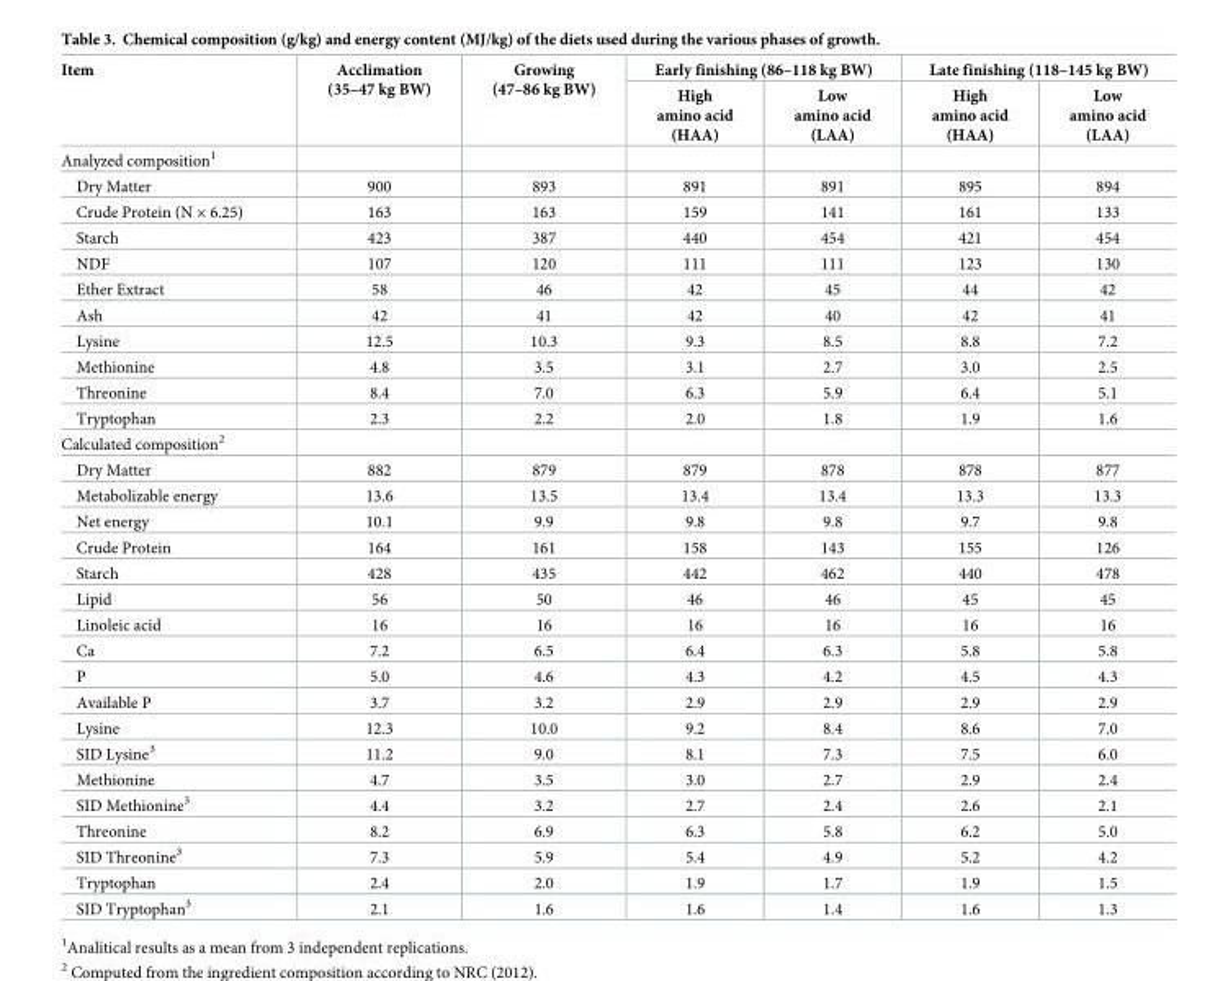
<table><thead><tr><td rowspan="2">Item</td><td rowspan="2">Acclimation (35–47 kg BW)</td><td rowspan="2">Growing (47–86 kg BW)</td><td colspan="2">Early finishing (86–118 kg BW)</td><td colspan="2">Late finishing (118–145 kg BW)</td></tr><tr><td>High amino acid (HAA)</td><td>Low amino acid (LAA)</td><td>High amino acid (HAA)</td><td>Low amino acid (LAA)</td></tr></thead><tbody><tr><td colspan="7">Analyzed composition<sup>1</sup></td></tr><tr><td>Dry Matter</td><td>900</td><td>893</td><td>891</td><td>891</td><td>895</td><td>894</td></tr><tr><td>Crude Protein (N × 6.25)</td><td>163</td><td>163</td><td>159</td><td>141</td><td>161</td><td>133</td></tr><tr><td>Starch</td><td>423</td><td>387</td><td>440</td><td>454</td><td>421</td><td>454</td></tr><tr><td>NDF</td><td>107</td><td>120</td><td>111</td><td>111</td><td>123</td><td>130</td></tr><tr><td>Ether Extract</td><td>58</td><td>46</td><td>42</td><td>45</td><td>44</td><td>42</td></tr><tr><td>Ash</td><td>42</td><td>41</td><td>42</td><td>40</td><td>42</td><td>41</td></tr><tr><td>Lysine</td><td>12.5</td><td>10.3</td><td>9.3</td><td>8.5</td><td>8.8</td><td>7.2</td></tr><tr><td>Methionine</td><td>4.8</td><td>3.5</td><td>3.1</td><td>2.7</td><td>3.0</td><td>2.5</td></tr><tr><td>Threonine</td><td>8.4</td><td>7.0</td><td>6.3</td><td>5.9</td><td>6.4</td><td>5.1</td></tr><tr><td>Tryptophan</td><td>2.3</td><td>2.2</td><td>2.0</td><td>1.8</td><td>1.9</td><td>1.6</td></tr><tr><td colspan="7">Calculated composition<sup>2</sup></td></tr><tr><td>Dry Matter</td><td>882</td><td>879</td><td>879</td><td>878</td><td>878</td><td>877</td></tr><tr><td>Metabolizable energy</td><td>13.6</td><td>13.5</td><td>13.4</td><td>13.4</td><td>13.3</td><td>13.3</td></tr><tr><td>Net energy</td><td>10.1</td><td>9.9</td><td>9.8</td><td>9.8</td><td>9.7</td><td>9.8</td></tr><tr><td>Crude Protein</td><td>164</td><td>161</td><td>158</td><td>143</td><td>155</td><td>126</td></tr><tr><td>Starch</td><td>428</td><td>435</td><td>442</td><td>462</td><td>440</td><td>478</td></tr><tr><td>Lipid</td><td>56</td><td>50</td><td>46</td><td>46</td><td>45</td><td>45</td></tr><tr><td>Linoleic acid</td><td>16</td><td>16</td><td>16</td><td>16</td><td>16</td><td>16</td></tr><tr><td>Ca</td><td>7.2</td><td>6.5</td><td>6.4</td><td>6.3</td><td>5.8</td><td>5.8</td></tr><tr><td>P</td><td>5.0</td><td>4.6</td><td>4.3</td><td>4.2</td><td>4.5</td><td>4.3</td></tr><tr><td>Available P</td><td>3.7</td><td>3.2</td><td>2.9</td><td>2.9</td><td>2.9</td><td>2.9</td></tr><tr><td>Lysine</td><td>12.3</td><td>10.0</td><td>9.2</td><td>8.4</td><td>8.6</td><td>7.0</td></tr><tr><td>SID Lysine<sup>3</sup></td><td>11.2</td><td>9.0</td><td>8.1</td><td>7.3</td><td>7.5</td><td>6.0</td></tr><tr><td>Methionine</td><td>4.7</td><td>3.5</td><td>3.0</td><td>2.7</td><td>2.9</td><td>2.4</td></tr><tr><td>SID Methionine<sup>3</sup></td><td>4.4</td><td>3.2</td><td>2.7</td><td>2.4</td><td>2.6</td><td>2.1</td></tr><tr><td>Threonine</td><td>8.2</td><td>6.9</td><td>6.3</td><td>5.8</td><td>6.2</td><td>5.0</td></tr><tr><td>SID Threonine<sup>3</sup></td><td>7.3</td><td>5.9</td><td>5.4</td><td>4.9</td><td>5.2</td><td>4.2</td></tr><tr><td>Tryptophan</td><td>2.4</td><td>2.0</td><td>1.9</td><td>1.7</td><td>1.9</td><td>1.5</td></tr><tr><td>SID Tryptophan<sup>3</sup></td><td>2.1</td><td>1.6</td><td>1.6</td><td>1.4</td><td>1.6</td><td>1.3</td></tr></tbody></table>